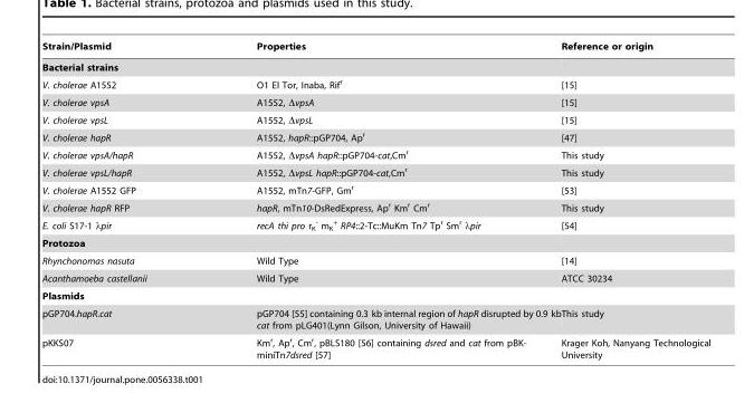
<table><thead><tr><td>Strain/Plasmid</td><td>Properties</td><td>Reference or origin</td></tr></thead><tbody><tr><td colspan="3">Bacterial strains</td></tr><tr><td>V. cholerae A1552</td><td>O1 El Tor, Inaba, Rif<sup>r</sup></td><td>[15]</td></tr><tr><td>V. cholerae vpsA</td><td>A1552, ΔvpsA</td><td>[15]</td></tr><tr><td>V. cholerae vpsL</td><td>A1552, ΔvpsL</td><td>[15]</td></tr><tr><td>V. cholerae hapR</td><td>A1552, hapR::pGP704, Ap<sup>r</sup></td><td>[47]</td></tr><tr><td>V. cholerae vpsA/hapR</td><td>A1552, ΔvpsA hapR::pGP704-cat,Cm<sup>r</sup></td><td>This study</td></tr><tr><td>V. cholerae vpsL/hapR</td><td>A1552, ΔvpsL hapR::pGP704-cat,Cm<sup>r</sup></td><td>This study</td></tr><tr><td>V. cholerae A1552 GFP</td><td>A1552, mTn7-GFP, Gm<sup>r</sup></td><td>[53]</td></tr><tr><td>V. cholerae hapR RFP</td><td>hapR, mTn10-DsRedExpress, Ap<sup>r</sup> Km<sup>r</sup> Cm<sup>r</sup></td><td>This study</td></tr><tr><td>E. coli S17-1 λpir</td><td>recA thi pro r<sub>K</sub> <sup>-</sup> m<sub>K</sub> <sup>+</sup> RP4::2-Tc::MuKm Tn7 Tp<sup>r</sup> Sm<sup>r</sup> λpir</td><td>[54]</td></tr><tr><td colspan="3">Protozoa</td></tr><tr><td>Rhynchonomas nasuta</td><td>Wild Type</td><td>[14]</td></tr><tr><td>Acanthamoeba castellanii</td><td>Wild Type</td><td>ATCC 30234</td></tr><tr><td colspan="3">Plasmids</td></tr><tr><td>pGP704.hapR.cat</td><td>pGP704 [55] containing 0.3 kb internal region of hapR disrupted by 0.9 kb cat from pLG401(Lynn Gilson, University of Hawaii)</td><td>This study</td></tr><tr><td>pKKS07</td><td>Km<sup>r</sup>, Ap<sup>r</sup>, Cm<sup>r</sup>, pBLS180 [56] containing dsred and cat from pBK- miniTn7dsred [57]</td><td>Krager Koh, Nanyang Technological University</td></tr></tbody></table>